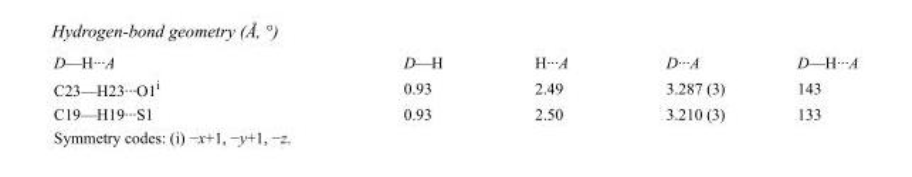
<table><tbody><tr><td>D—H···A</td><td>D—H</td><td>H···A</td><td>D···A</td><td>D—H···A</td></tr><tr><td>C23—H23···O1<sup>i</sup></td><td>0.93</td><td>2.49</td><td>3.287 (3)</td><td>143</td></tr><tr><td>C19—H19···S1</td><td>0.93</td><td>2.50</td><td>3.210 (3)</td><td>133</td></tr></tbody></table>